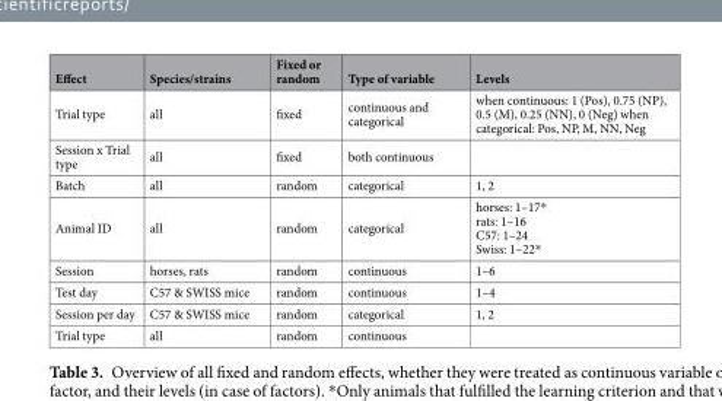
<table><thead><tr><td>Effect</td><td>Species/strains</td><td>Fixed or random</td><td>Type of variable</td><td>Levels</td></tr></thead><tbody><tr><td>Trial type</td><td>all</td><td>fixed</td><td>continuous and categorical</td><td>when continuous: 1 (Pos), 0.75 (NP), 0.5 (M), 0.25 (NN), 0 (Neg) when categorical: Pos, NP, M, NN, Neg</td></tr><tr><td>Session x Trial type</td><td>all</td><td>fixed</td><td>both continuous</td><td></td></tr><tr><td>Batch</td><td>all</td><td>random</td><td>categorical</td><td>1, 2</td></tr><tr><td>Animal ID</td><td>all</td><td>random</td><td>categorical</td><td>horses: 1–17* rats: 1–16 C57: 1–24 Swiss: 1–22*</td></tr><tr><td>Session</td><td>horses, rats</td><td>random</td><td>continuous</td><td>1–6</td></tr><tr><td>Test day</td><td>C57 &amp; SWISS mice</td><td>random</td><td>continuous</td><td>1–4</td></tr><tr><td>Session per day</td><td>C57 &amp; SWISS mice</td><td>random</td><td>categorical</td><td>1, 2</td></tr><tr><td>Trial type</td><td>all</td><td>random</td><td>continuous</td><td></td></tr></tbody></table>